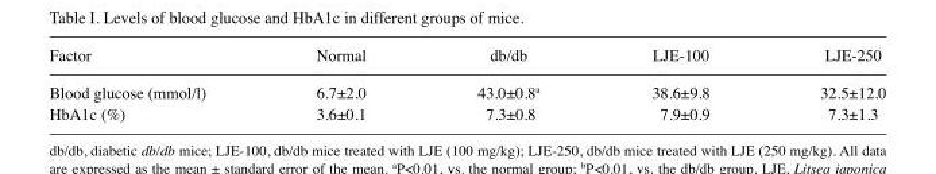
<table><thead><tr><td>Factor</td><td>Normal</td><td>db/db</td><td>LJE-100</td><td>LJE-250</td></tr></thead><tbody><tr><td>Blood glucose (mmol/l)</td><td>6.7±2.0</td><td>43.0±0.8<sup>a</sup></td><td>38.6±9.8</td><td>32.5±12.0</td></tr><tr><td>HbA1c (%)</td><td>3.6±0.1</td><td>7.3±0.8</td><td>7.9±0.9</td><td>7.3±1.3</td></tr></tbody></table>